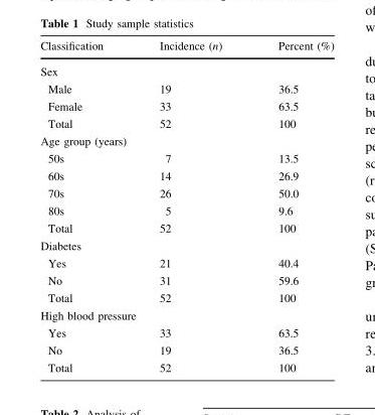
<table><thead><tr><td>Classification</td><td>Incidence (n)</td><td>Percent (%)</td></tr></thead><tbody><tr><td colspan="3">Sex</td></tr><tr><td>Male</td><td>19</td><td>36.5</td></tr><tr><td>Female</td><td>33</td><td>63.5</td></tr><tr><td>Total</td><td>52</td><td>100</td></tr><tr><td colspan="3">Age group (years)</td></tr><tr><td>50s</td><td>7</td><td>13.5</td></tr><tr><td>60s</td><td>14</td><td>26.9</td></tr><tr><td>70s</td><td>26</td><td>50.0</td></tr><tr><td>80s</td><td>5</td><td>9.6</td></tr><tr><td>Total</td><td>52</td><td>100</td></tr><tr><td colspan="3">Diabetes</td></tr><tr><td>Yes</td><td>21</td><td>40.4</td></tr><tr><td>No</td><td>31</td><td>59.6</td></tr><tr><td>Total</td><td>52</td><td>100</td></tr><tr><td colspan="3">High blood pressure</td></tr><tr><td>Yes</td><td>33</td><td>63.5</td></tr><tr><td>No</td><td>19</td><td>36.5</td></tr><tr><td>Total</td><td>52</td><td>100</td></tr></tbody></table>